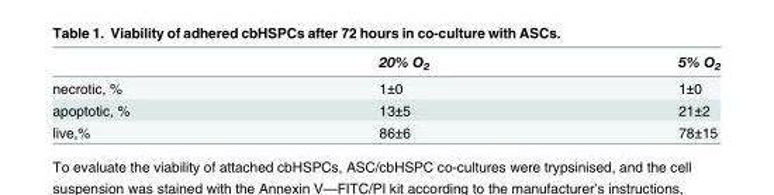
<table><thead><tr><td></td><td>20% O<sub>2</sub></td><td>5% O<sub>2</sub></td></tr></thead><tbody><tr><td>necrotic, %</td><td>1±0</td><td>1±0</td></tr><tr><td>apoptotic, %</td><td>13±5</td><td>21±2</td></tr><tr><td>live,%</td><td>86±6</td><td>78±15</td></tr></tbody></table>